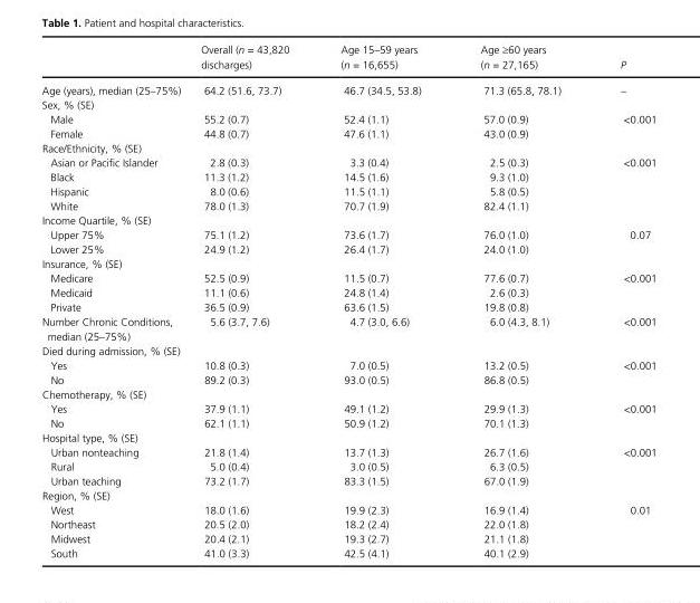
<table><thead><tr><td></td><td>Overall (n = 43,820 discharges)</td><td>Age 15–59 years (n = 16,655)</td><td>Age ≥60 years (n = 27,165)</td><td>P</td></tr></thead><tbody><tr><td>Age (years), median (25–75%)</td><td>64.2 (51.6, 73.7)</td><td>46.7 (34.5, 53.8)</td><td>71.3 (65.8, 78.1)</td><td>–</td></tr><tr><td colspan="5">Sex, % (SE)</td></tr><tr><td>Male</td><td>55.2 (0.7)</td><td>52.4 (1.1)</td><td>57.0 (0.9)</td><td rowspan="2">&lt;0.001</td></tr><tr><td>Female</td><td>44.8 (0.7)</td><td>47.6 (1.1)</td><td>43.0 (0.9)</td></tr><tr><td colspan="5">Race/Ethnicity, % (SE)</td></tr><tr><td>Asian or Pacific Islander</td><td>2.8 (0.3)</td><td>3.3 (0.4)</td><td>2.5 (0.3)</td><td rowspan="4">&lt;0.001</td></tr><tr><td>Black</td><td>11.3 (1.2)</td><td>14.5 (1.6)</td><td>9.3 (1.0)</td></tr><tr><td>Hispanic</td><td>8.0 (0.6)</td><td>11.5 (1.1)</td><td>5.8 (0.5)</td></tr><tr><td>White</td><td>78.0 (1.3)</td><td>70.7 (1.9)</td><td>82.4 (1.1)</td></tr><tr><td colspan="5">Income Quartile, % (SE)</td></tr><tr><td>Upper 75%</td><td>75.1 (1.2)</td><td>73.6 (1.7)</td><td>76.0 (1.0)</td><td rowspan="2">0.07</td></tr><tr><td>Lower 25%</td><td>24.9 (1.2)</td><td>26.4 (1.7)</td><td>24.0 (1.0)</td></tr><tr><td colspan="5">Insurance, % (SE)</td></tr><tr><td>Medicare</td><td>52.5 (0.9)</td><td>11.5 (0.7)</td><td>77.6 (0.7)</td><td rowspan="3">&lt;0.001</td></tr><tr><td>Medicaid</td><td>11.1 (0.6)</td><td>24.8 (1.4)</td><td>2.6 (0.3)</td></tr><tr><td>Private</td><td>36.5 (0.9)</td><td>63.6 (1.5)</td><td>19.8 (0.8)</td></tr><tr><td>Number Chronic Conditions, median (25–75%)</td><td>5.6 (3.7, 7.6)</td><td>4.7 (3.0, 6.6)</td><td>6.0 (4.3, 8.1)</td><td>&lt;0.001</td></tr><tr><td colspan="5">Died during admission, % (SE)</td></tr><tr><td>Yes</td><td>10.8 (0.3)</td><td>7.0 (0.5)</td><td>13.2 (0.5)</td><td rowspan="2">&lt;0.001</td></tr><tr><td>No</td><td>89.2 (0.3)</td><td>93.0 (0.5)</td><td>86.8 (0.5)</td></tr><tr><td colspan="5">Chemotherapy, % (SE)</td></tr><tr><td>Yes</td><td>37.9 (1.1)</td><td>49.1 (1.2)</td><td>29.9 (1.3)</td><td rowspan="2">&lt;0.001</td></tr><tr><td>No</td><td>62.1 (1.1)</td><td>50.9 (1.2)</td><td>70.1 (1.3)</td></tr><tr><td colspan="5">Hospital type, % (SE)</td></tr><tr><td>Urban nonteaching</td><td>21.8 (1.4)</td><td>13.7 (1.3)</td><td>26.7 (1.6)</td><td rowspan="3">&lt;0.001</td></tr><tr><td>Rural</td><td>5.0 (0.4)</td><td>3.0 (0.5)</td><td>6.3 (0.5)</td></tr><tr><td>Urban teaching</td><td>73.2 (1.7)</td><td>83.3 (1.5)</td><td>67.0 (1.9)</td></tr><tr><td colspan="5">Region, % (SE)</td></tr><tr><td>West</td><td>18.0 (1.6)</td><td>19.9 (2.3)</td><td>16.9 (1.4)</td><td rowspan="4">0.01</td></tr><tr><td>Northeast</td><td>20.5 (2.0)</td><td>18.2 (2.4)</td><td>22.0 (1.8)</td></tr><tr><td>Midwest</td><td>20.4 (2.1)</td><td>19.3 (2.7)</td><td>21.1 (1.8)</td></tr><tr><td>South</td><td>41.0 (3.3)</td><td>42.5 (4.1)</td><td>40.1 (2.9)</td></tr></tbody></table>